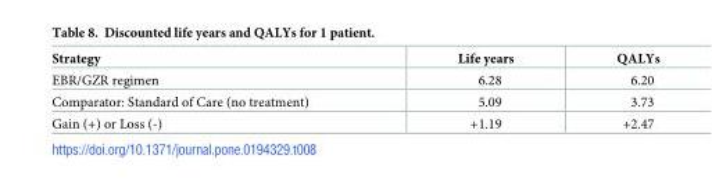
<table><thead><tr><td>Strategy</td><td>Life years</td><td>QALYs</td></tr></thead><tbody><tr><td>EBR/GZR regimen</td><td>6.28</td><td>6.20</td></tr><tr><td>Comparator: Standard of Care (no treatment)</td><td>5.09</td><td>3.73</td></tr><tr><td>Gain (+) or Loss (-)</td><td>+1.19</td><td>+2.47</td></tr></tbody></table>